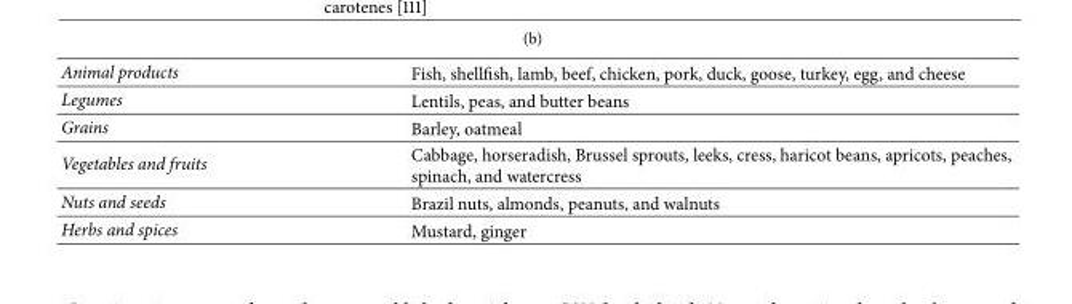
<table><tbody><tr><td>Animal products</td><td>Fish, shellfish, lamb, beef, chicken, pork, duck, goose, turkey, egg, and cheese</td></tr><tr><td>Legumes</td><td>Lentils, peas, and butter beans</td></tr><tr><td>Grains</td><td>Barley, oatmeal</td></tr><tr><td>Vegetables and fruits</td><td>Cabbage, horseradish, Brussel sprouts, leeks, cress, haricot beans, apricots, peaches, spinach, and watercress</td></tr><tr><td>Nuts and seeds</td><td>Brazil nuts, almonds, peanuts, and walnuts</td></tr><tr><td>Herbs and spices</td><td>Mustard, ginger</td></tr></tbody></table>